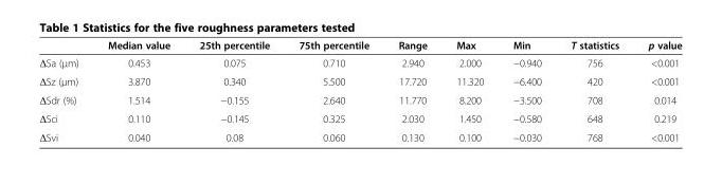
<table><thead><tr><td></td><td>Median value</td><td>25th percentile</td><td>75th percentile</td><td>Range</td><td>Max</td><td>Min</td><td>T statistics</td><td>p value</td></tr></thead><tbody><tr><td>ΔSa (μm)</td><td>0.453</td><td>0.075</td><td>0.710</td><td>2.940</td><td>2.000</td><td>−0.940</td><td>756</td><td>&lt;0.001</td></tr><tr><td>ΔSz (μm)</td><td>3.870</td><td>0.340</td><td>5.500</td><td>17.720</td><td>11.320</td><td>−6.400</td><td>420</td><td>&lt;0.001</td></tr><tr><td>ΔSdr (%)</td><td>1.514</td><td>−0.155</td><td>2.640</td><td>11.770</td><td>8.200</td><td>−3.500</td><td>708</td><td>0.014</td></tr><tr><td>ΔSci</td><td>0.110</td><td>−0.145</td><td>0.325</td><td>2.030</td><td>1.450</td><td>−0.580</td><td>648</td><td>0.219</td></tr><tr><td>ΔSvi</td><td>0.040</td><td>0.08</td><td>0.060</td><td>0.130</td><td>0.100</td><td>−0.030</td><td>768</td><td>&lt;0.001</td></tr></tbody></table>